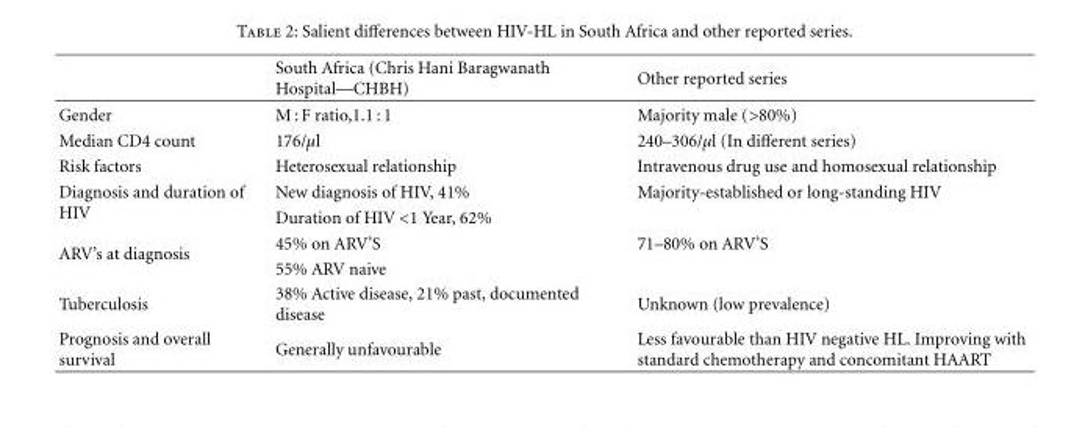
<table><thead><tr><td></td><td>South Africa (Chris Hani Baragwanath Hospital—CHBH)</td><td>Other reported series</td></tr></thead><tbody><tr><td>Gender</td><td>M : F ratio,1.1 : 1</td><td>Majority male (&gt;80%)</td></tr><tr><td>Median CD4 count</td><td>176/μl</td><td>240–306/μl (In different series)</td></tr><tr><td>Risk factors</td><td>Heterosexual relationship</td><td>Intravenous drug use and homosexual relationship</td></tr><tr><td rowspan="2">Diagnosis and duration of HIV</td><td>New diagnosis of HIV, 41%</td><td>Majority-established or long-standing HIV</td></tr><tr><td>Duration of HIV &lt;1 Year, 62%</td><td></td></tr><tr><td rowspan="2">ARV’s at diagnosis</td><td>45% on ARV’S</td><td>71–80% on ARV’S</td></tr><tr><td>55% ARV naive</td><td></td></tr><tr><td>Tuberculosis</td><td>38% Active disease, 21% past, documented disease</td><td>Unknown (low prevalence)</td></tr><tr><td>Prognosis and overall survival</td><td>Generally unfavourable</td><td>Less favourable than HIV negative HL. Improving with standard chemotherapy and concomitant HAART</td></tr></tbody></table>